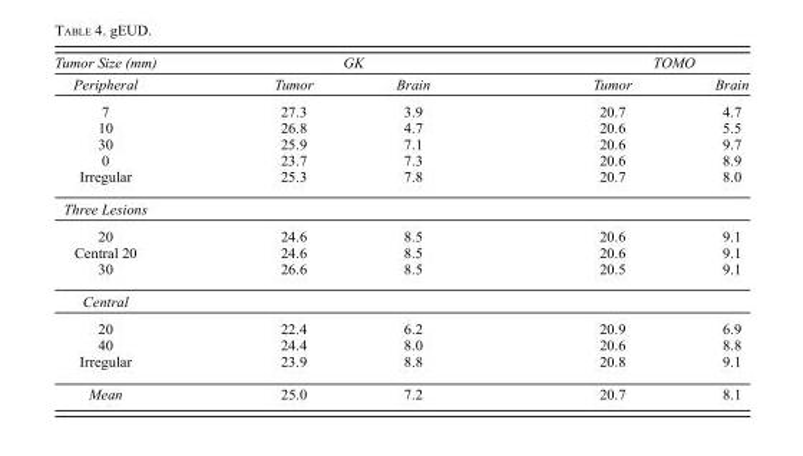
<table><thead><tr><td rowspan="2">Tumor Size (mm) Peripheral</td><td colspan="2">GK</td><td colspan="2">TOMO</td></tr><tr><td>Tumor</td><td>Brain</td><td>Tumor</td><td>Brain</td></tr></thead><tbody><tr><td>7</td><td>27.3</td><td>3.9</td><td>20.7</td><td>4.7</td></tr><tr><td>10</td><td>26.8</td><td>4.7</td><td>20.6</td><td>5.5</td></tr><tr><td>30</td><td>25.9</td><td>7.1</td><td>20.6</td><td>9.7</td></tr><tr><td>0</td><td>23.7</td><td>7.3</td><td>20.6</td><td>8.9</td></tr><tr><td>Irregular</td><td>25.3</td><td>7.8</td><td>20.7</td><td>8.0</td></tr><tr><td colspan="5">Three Lesions</td></tr><tr><td>20</td><td>24.6</td><td>8.5</td><td>20.6</td><td>9.1</td></tr><tr><td>Central 20</td><td>24.6</td><td>8.5</td><td>20.6</td><td>9.1</td></tr><tr><td>30</td><td>26.6</td><td>8.5</td><td>20.5</td><td>9.1</td></tr><tr><td colspan="5">Central</td></tr><tr><td>20</td><td>22.4</td><td>6.2</td><td>20.9</td><td>6.9</td></tr><tr><td>40</td><td>24.4</td><td>8.0</td><td>20.6</td><td>8.8</td></tr><tr><td>Irregular</td><td>23.9</td><td>8.8</td><td>20.8</td><td>9.1</td></tr><tr><td>Mean</td><td>25.0</td><td>7.2</td><td>20.7</td><td>8.1</td></tr></tbody></table>